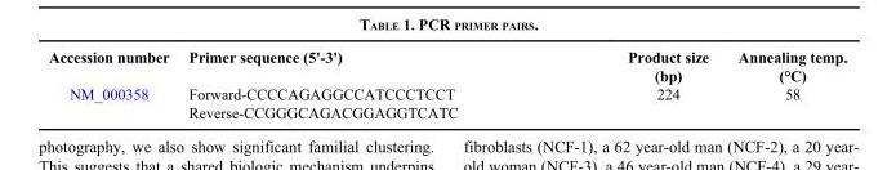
<table><thead><tr><td>Accession number</td><td>Primer sequence (5&#x27;-3&#x27;)</td><td>Product size (bp)</td><td>Annealing temp. (°C)</td></tr></thead><tbody><tr><td rowspan="2">NM_000358</td><td>Forward-CCCCAGAGGCCATCCCTCCT</td><td>224</td><td>58</td></tr><tr><td>Reverse-CCGGGCAGACGGAGGTCATC</td><td></td><td></td></tr></tbody></table>